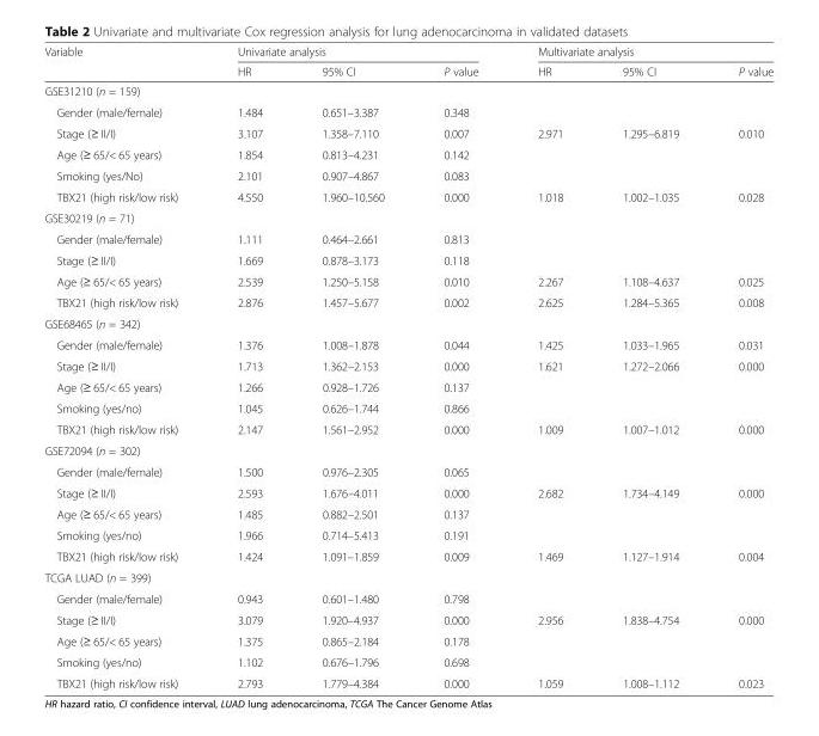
<table><thead><tr><td rowspan="2">Variable</td><td colspan="3">Univariate analysis</td><td colspan="3">Multivariate analysis</td></tr><tr><td>HR</td><td>95% CI</td><td>P value</td><td>HR</td><td>95% CI</td><td>P value</td></tr></thead><tbody><tr><td colspan="7">GSE31210 (n = 159)</td></tr><tr><td>Gender (male/female)</td><td>1.484</td><td>0.651–3.387</td><td>0.348</td><td></td><td></td><td></td></tr><tr><td>Stage (≥ II/I)</td><td>3.107</td><td>1.358–7.110</td><td>0.007</td><td>2.971</td><td>1.295–6.819</td><td>0.010</td></tr><tr><td>Age (≥ 65/&lt; 65 years)</td><td>1.854</td><td>0.813–4.231</td><td>0.142</td><td></td><td></td><td rowspan="2"></td></tr><tr><td>Smoking (yes/No)</td><td>2.101</td><td>0.907–4.867</td><td>0.083</td><td></td><td></td></tr><tr><td>TBX21 (high risk/low risk)</td><td>4.550</td><td>1.960–10.560</td><td>0.000</td><td>1.018</td><td>1.002–1.035</td><td>0.028</td></tr><tr><td colspan="7">GSE30219 (n = 71)</td></tr><tr><td>Gender (male/female)</td><td>1.111</td><td>0.464–2.661</td><td>0.813</td><td></td><td></td><td rowspan="2"></td></tr><tr><td>Stage (≥ II/I)</td><td>1.669</td><td>0.878–3.173</td><td>0.118</td><td></td><td></td></tr><tr><td>Age (≥ 65/&lt; 65 years)</td><td>2.539</td><td>1.250–5.158</td><td>0.010</td><td>2.267</td><td>1.108–4.637</td><td>0.025</td></tr><tr><td>TBX21 (high risk/low risk)</td><td>2.876</td><td>1.457–5.677</td><td>0.002</td><td>2.625</td><td>1.284–5.365</td><td>0.008</td></tr><tr><td colspan="7">GSE68465 (n = 342)</td></tr><tr><td>Gender (male/female)</td><td>1.376</td><td>1.008–1.878</td><td>0.044</td><td>1.425</td><td>1.033–1.965</td><td>0.031</td></tr><tr><td>Stage (≥ II/I)</td><td>1.713</td><td>1.362–2.153</td><td>0.000</td><td>1.621</td><td>1.272–2.066</td><td>0.000</td></tr><tr><td>Age (≥ 65/&lt; 65 years)</td><td>1.266</td><td>0.928–1.726</td><td>0.137</td><td></td><td></td><td rowspan="2"></td></tr><tr><td>Smoking (yes/no)</td><td>1.045</td><td>0.626–1.744</td><td>0.866</td><td></td><td></td></tr><tr><td>TBX21 (high risk/low risk)</td><td>2.147</td><td>1.561–2.952</td><td>0.000</td><td>1.009</td><td>1.007–1.012</td><td>0.000</td></tr><tr><td colspan="7">GSE72094 (n = 302)</td></tr><tr><td>Gender (male/female)</td><td>1.500</td><td>0.976–2.305</td><td>0.065</td><td></td><td></td><td></td></tr><tr><td>Stage (≥ II/I)</td><td>2.593</td><td>1.676–4.011</td><td>0.000</td><td>2.682</td><td>1.734–4.149</td><td>0.000</td></tr><tr><td>Age (≥ 65/&lt; 65 years)</td><td>1.485</td><td>0.882–2.501</td><td>0.137</td><td></td><td></td><td rowspan="2"></td></tr><tr><td>Smoking (yes/no)</td><td>1.966</td><td>0.714–5.413</td><td>0.191</td><td></td><td></td></tr><tr><td>TBX21 (high risk/low risk)</td><td>1.424</td><td>1.091–1.859</td><td>0.009</td><td>1.469</td><td>1.127–1.914</td><td>0.004</td></tr><tr><td colspan="7">TCGA LUAD (n = 399)</td></tr><tr><td>Gender (male/female)</td><td>0.943</td><td>0.601–1.480</td><td>0.798</td><td></td><td></td><td></td></tr><tr><td>Stage (≥ II/I)</td><td>3.079</td><td>1.920–4.937</td><td>0.000</td><td>2.956</td><td>1.838–4.754</td><td>0.000</td></tr><tr><td>Age (≥ 65/&lt; 65 years)</td><td>1.375</td><td>0.865–2.184</td><td>0.178</td><td></td><td></td><td rowspan="2"></td></tr><tr><td>Smoking (yes/no)</td><td>1.102</td><td>0.676–1.796</td><td>0.698</td><td></td><td></td></tr><tr><td>TBX21 (high risk/low risk)</td><td>2.793</td><td>1.779–4.384</td><td>0.000</td><td>1.059</td><td>1.008–1.112</td><td>0.023</td></tr></tbody></table>